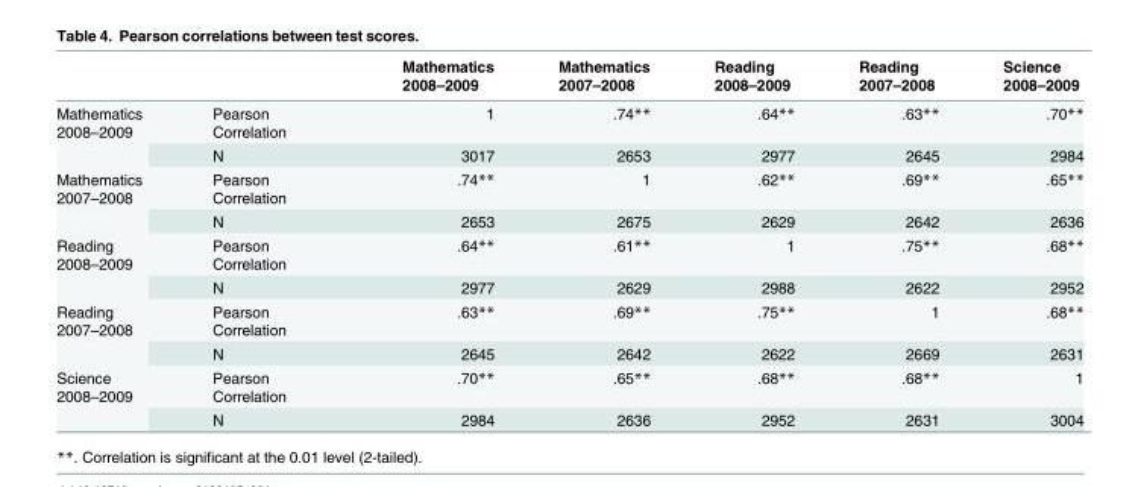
<table><thead><tr><td></td><td></td><td>Mathematics 2008–2009</td><td>Mathematics 2007–2008</td><td>Reading 2008–2009</td><td>Reading 2007–2008</td><td>Science 2008–2009</td></tr></thead><tbody><tr><td rowspan="2">Mathematics 2008–2009</td><td>Pearson Correlation</td><td>1</td><td>.74**</td><td>.64**</td><td>.63**</td><td>.70**</td></tr><tr><td>N</td><td>3017</td><td>2653</td><td>2977</td><td>2645</td><td>2984</td></tr><tr><td rowspan="2">Mathematics 2007–2008</td><td>Pearson Correlation</td><td>.74**</td><td>1</td><td>.62**</td><td>.69**</td><td>.65**</td></tr><tr><td>N</td><td>2653</td><td>2675</td><td>2629</td><td>2642</td><td>2636</td></tr><tr><td rowspan="2">Reading 2008–2009</td><td>Pearson Correlation</td><td>.64**</td><td>.61**</td><td>1</td><td>.75**</td><td>.68**</td></tr><tr><td>N</td><td>2977</td><td>2629</td><td>2988</td><td>2622</td><td>2952</td></tr><tr><td rowspan="2">Reading 2007–2008</td><td>Pearson Correlation</td><td>.63**</td><td>.69**</td><td>.75**</td><td>1</td><td>.68**</td></tr><tr><td>N</td><td>2645</td><td>2642</td><td>2622</td><td>2669</td><td>2631</td></tr><tr><td rowspan="2">Science 2008–2009</td><td>Pearson Correlation</td><td>.70**</td><td>.65**</td><td>.68**</td><td>.68**</td><td>1</td></tr><tr><td>N</td><td>2984</td><td>2636</td><td>2952</td><td>2631</td><td>3004</td></tr></tbody></table>